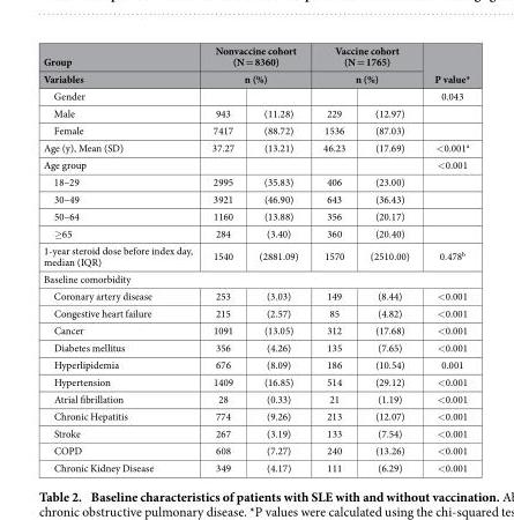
<table><thead><tr><td rowspan="3">Group Variables Gender</td><td rowspan="2" colspan="2">Nonvaccine cohort (N = 8360) n (%)</td><td rowspan="2" colspan="2">Vaccine cohort (N = 1765) n (%)</td><td rowspan="3">P value* 0.043</td></tr><tr></tr><tr><td></td><td></td><td></td><td></td></tr></thead><tbody><tr><td>Male</td><td>943</td><td>(11.28)</td><td>229</td><td>(12.97)</td><td></td></tr><tr><td>Female</td><td>7417</td><td>(88.72)</td><td>1536</td><td>(87.03)</td><td></td></tr><tr><td>Age (y), Mean (SD)</td><td>37.27</td><td>(13.21)</td><td>46.23</td><td>(17.69)</td><td>&lt; 0.001<sup>a</sup></td></tr><tr><td>Age group</td><td></td><td></td><td></td><td></td><td>&lt; 0.001</td></tr><tr><td>18–29</td><td>2995</td><td>(35.83)</td><td>406</td><td>(23.00)</td><td></td></tr><tr><td>30–49</td><td>3921</td><td>(46.90)</td><td>643</td><td>(36.43)</td><td></td></tr><tr><td>50–64</td><td>1160</td><td>(13.88)</td><td>356</td><td>(20.17)</td><td></td></tr><tr><td>≥ 65</td><td>284</td><td>(3.40)</td><td>360</td><td>(20.40)</td><td></td></tr><tr><td>1-year steroid dose before index day, median (IQR)</td><td>1540</td><td>(2881.09)</td><td>1570</td><td>(2510.00)</td><td>0.478<sup>b</sup></td></tr><tr><td colspan="6">Baseline comorbidity</td></tr><tr><td>Coronary artery disease</td><td>253</td><td>(3.03)</td><td>149</td><td>(8.44)</td><td>&lt; 0.001</td></tr><tr><td>Congestive heart failure</td><td>215</td><td>(2.57)</td><td>85</td><td>(4.82)</td><td>&lt; 0.001</td></tr><tr><td>Cancer</td><td>1091</td><td>(13.05)</td><td>312</td><td>(17.68)</td><td>&lt; 0.001</td></tr><tr><td>Diabetes mellitus</td><td>356</td><td>(4.26)</td><td>135</td><td>(7.65)</td><td>&lt; 0.001</td></tr><tr><td>Hyperlipidemia</td><td>676</td><td>(8.09)</td><td>186</td><td>(10.54)</td><td>0.001</td></tr><tr><td>Hypertension</td><td>1409</td><td>(16.85)</td><td>514</td><td>(29.12)</td><td>&lt; 0.001</td></tr><tr><td>Atrial fibrillation</td><td>28</td><td>(0.33)</td><td>21</td><td>(1.19)</td><td>&lt; 0.001</td></tr><tr><td>Chronic Hepatitis</td><td>774</td><td>(9.26)</td><td>213</td><td>(12.07)</td><td>&lt; 0.001</td></tr><tr><td>Stroke</td><td>267</td><td>(3.19)</td><td>133</td><td>(7.54)</td><td>&lt; 0.001</td></tr><tr><td>COPD</td><td>608</td><td>(7.27)</td><td>240</td><td>(13.26)</td><td>&lt; 0.001</td></tr><tr><td>Chronic Kidney Disease</td><td>349</td><td>(4.17)</td><td>111</td><td>(6.29)</td><td>&lt; 0.001</td></tr></tbody></table>